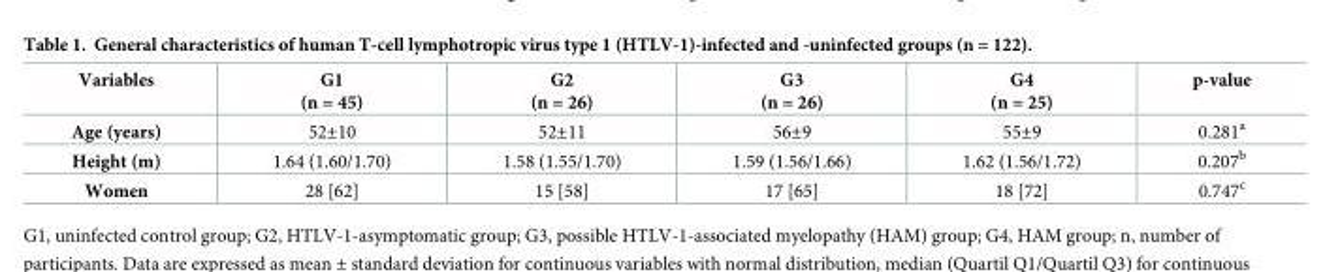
<table><thead><tr><td>Variables</td><td>G1 (n = 45)</td><td>G2 (n = 26)</td><td>G3 (n = 26)</td><td>G4 (n = 25)</td><td>p-value</td></tr></thead><tbody><tr><td>Age (years)</td><td>52±10</td><td>52±11</td><td>56±9</td><td>55±9</td><td>0.281<sup>a</sup></td></tr><tr><td>Height (m)</td><td>1.64 (1.60/1.70)</td><td>1.58 (1.55/1.70)</td><td>1.59 (1.56/1.66)</td><td>1.62 (1.56/1.72)</td><td>0.207<sup>b</sup></td></tr><tr><td>Women</td><td>28 [62]</td><td>15 [58]</td><td>17 [65]</td><td>18 [72]</td><td>0.747<sup>c</sup></td></tr></tbody></table>